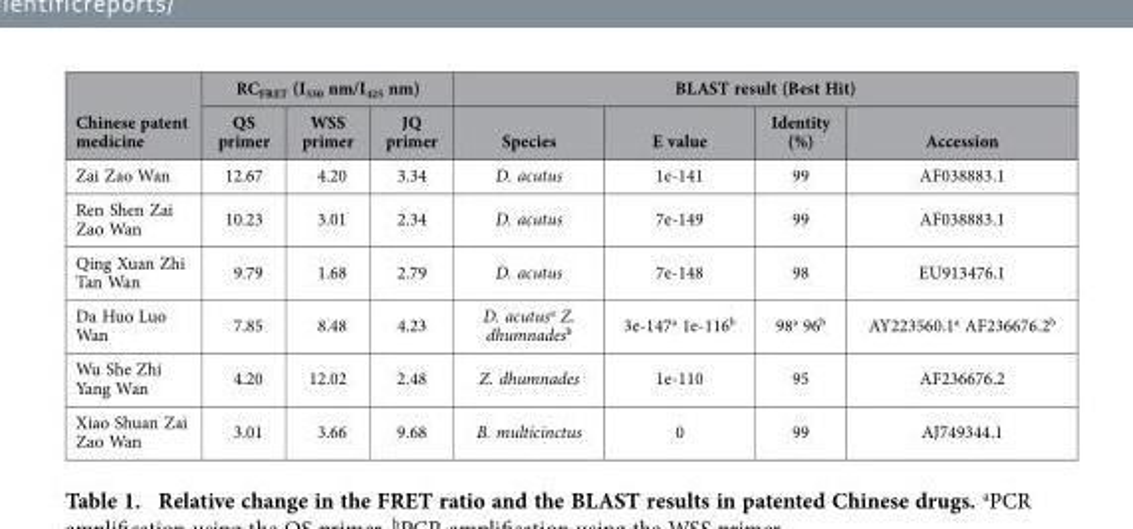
<table><thead><tr><td rowspan="2">Chinese patent medicine</td><td colspan="3">RC<sub>FRET</sub> (I<sub>530</sub> nm/I<sub>425</sub> nm)</td><td colspan="4">BLAST result (Best Hit)</td></tr><tr><td>QS primer</td><td>WSS primer</td><td>JQ primer</td><td>Species</td><td>E value</td><td>Identity (%)</td><td>Accession</td></tr></thead><tbody><tr><td>Zai Zao Wan</td><td>12.67</td><td>4.20</td><td>3.34</td><td>D. acutus</td><td>1e-141</td><td>99</td><td>AF038883.1</td></tr><tr><td>Ren Shen Zai Zao Wan</td><td>10.23</td><td>3.01</td><td>2.34</td><td>D. acutus</td><td>7e-149</td><td>99</td><td>AF038883.1</td></tr><tr><td>Qing Xuan Zhi Tan Wan</td><td>9.79</td><td>1.68</td><td>2.79</td><td>D. acutus</td><td>7e-148</td><td>98</td><td>EU913476.1</td></tr><tr><td>Da Huo Luo Wan</td><td>7.85</td><td>8.48</td><td>4.23</td><td>D. acutus<sup>a</sup> Z. dhumnades<sup>b</sup></td><td>3e-147<sup>a</sup> 1e-116<sup>b</sup></td><td>98<sup>a</sup> 96<sup>b</sup></td><td>AY223560.1<sup>a</sup> AF236676.2<sup>b</sup></td></tr><tr><td>Wu She Zhi Yang Wan</td><td>4.20</td><td>12.02</td><td>2.48</td><td>Z. dhumnades</td><td>1e-110</td><td>95</td><td>AF236676.2</td></tr><tr><td>Xiao Shuan Zai Zao Wan</td><td>3.01</td><td>3.66</td><td>9.68</td><td>B. multicinctus</td><td>0</td><td>99</td><td>AJ749344.1</td></tr></tbody></table>